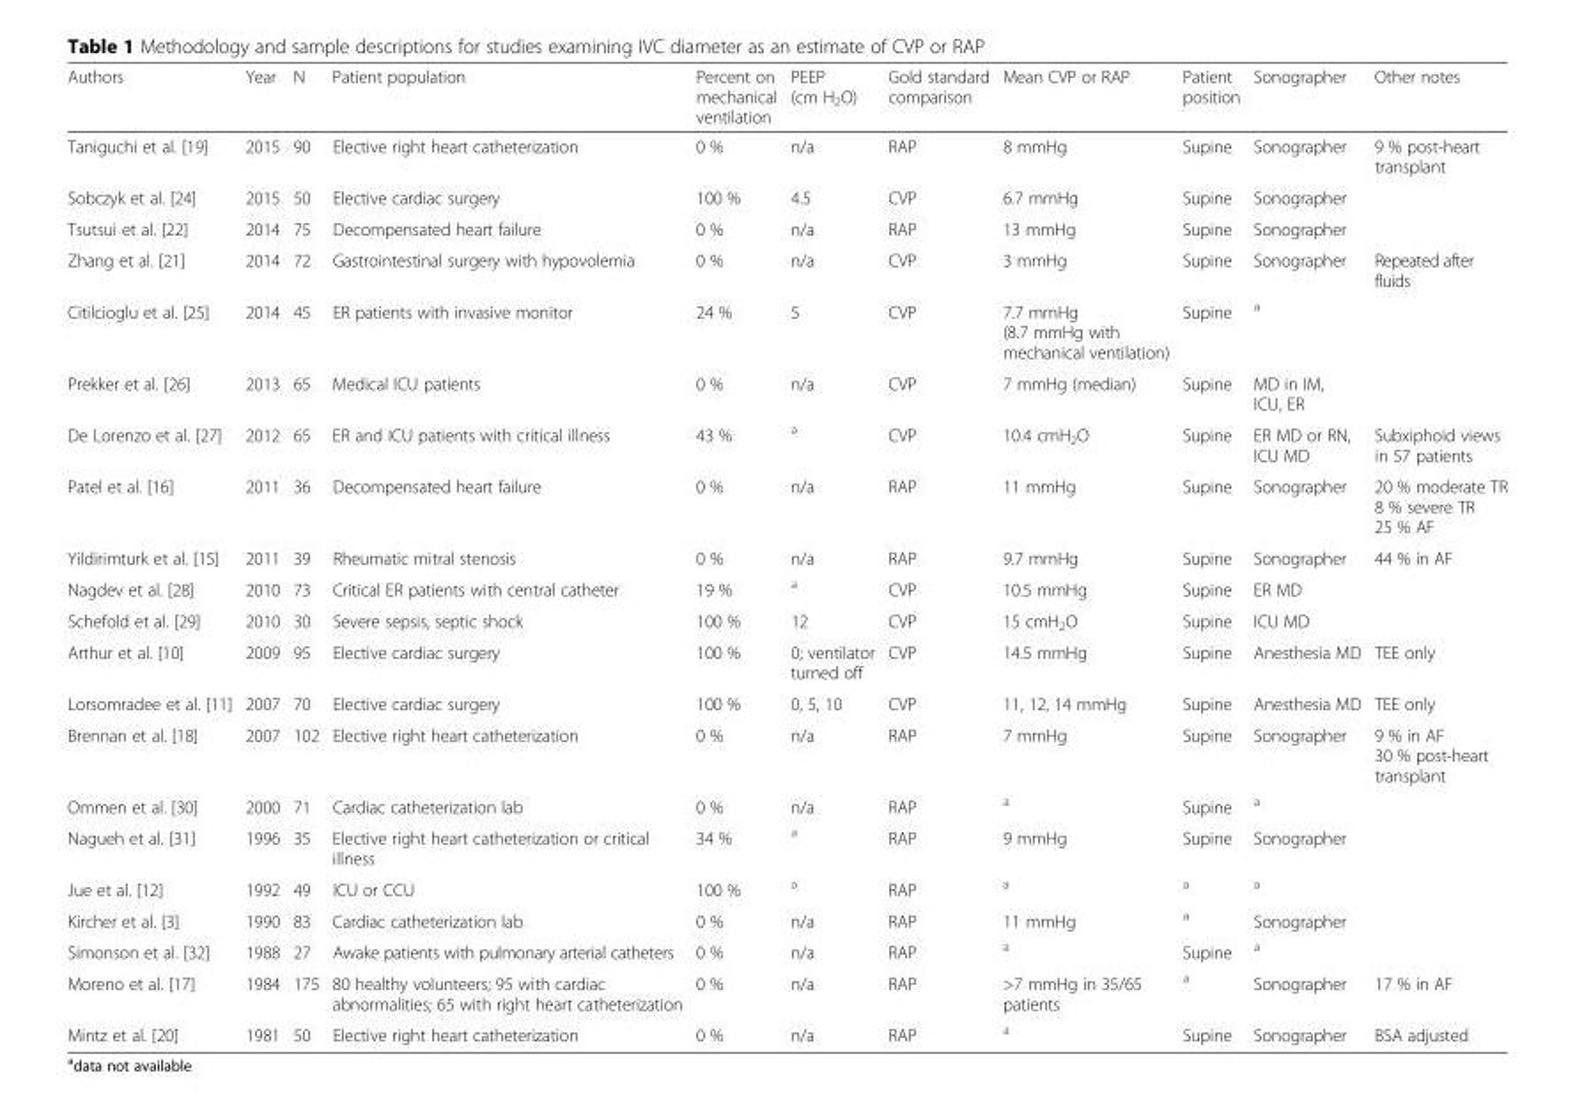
<table><thead><tr><td>Authors</td><td>Year</td><td>N</td><td>Patient population</td><td>Percent on mechanical ventilation</td><td>PEEP (cm H<sub>2</sub>O)</td><td>Gold standard comparison</td><td>Mean CVP or RAP</td><td>Patient position</td><td>Sonographer</td><td>Other notes</td></tr></thead><tbody><tr><td>Taniguchi et al. [19]</td><td>2015</td><td>90</td><td>Elective right heart catheterization</td><td>0 %</td><td>n/a</td><td>RAP</td><td>8 mmHg</td><td>Supine</td><td>Sonographer</td><td>9 % post-heart transplant</td></tr><tr><td>Sobczyk et al. [24]</td><td>2015</td><td>50</td><td>Elective cardiac surgery</td><td>100 %</td><td>4.5</td><td>CVP</td><td>6.7 mmHg</td><td>Supine</td><td>Sonographer</td><td></td></tr><tr><td>Tsutsui et al. [22]</td><td>2014</td><td>75</td><td>Decompensated heart failure</td><td>0 %</td><td>n/a</td><td>RAP</td><td>13 mmHg</td><td>Supine</td><td>Sonographer</td><td></td></tr><tr><td>Zhang et al. [21]</td><td>2014</td><td>72</td><td>Gastrointestinal surgery with hypovolemia</td><td>0 %</td><td>n/a</td><td>CVP</td><td>3 mmHg</td><td>Supine</td><td>Sonographer</td><td>Repeated after fluids</td></tr><tr><td>Citilcioglu et al. [25]</td><td>2014</td><td>45</td><td>ER patients with invasive monitor</td><td>24 %</td><td>5</td><td>CVP</td><td>7.7 mmHg (8.7 mmHg with mechanical ventilation)</td><td>Supine</td><td><sup>a</sup></td><td></td></tr><tr><td>Prekker et al. [26]</td><td>2013</td><td>65</td><td>Medical ICU patients</td><td>0 %</td><td>n/a</td><td>CVP</td><td>7 mmHg (median)</td><td>Supine</td><td>MD in IM, ICU, ER</td><td></td></tr><tr><td>De Lorenzo et al. [27]</td><td>2012</td><td>65</td><td>ER and ICU patients with critical illness</td><td>43 %</td><td><sup>a</sup></td><td>CVP</td><td>10.4 cmH<sub>2</sub>O</td><td>Supine</td><td>ER MD or RN, ICU MD</td><td>Subxiphoid views in 57 patients</td></tr><tr><td>Patel et al. [16]</td><td>2011</td><td>36</td><td>Decompensated heart failure</td><td>0 %</td><td>n/a</td><td>RAP</td><td>11 mmHg</td><td>Supine</td><td>Sonographer</td><td>20 % moderate TR 8 % severe TR 25 % AF</td></tr><tr><td>Yildirimturk et al. [15]</td><td>2011</td><td>39</td><td>Rheumatic mitral stenosis</td><td>0 %</td><td>n/a</td><td>RAP</td><td>9.7 mmHg</td><td>Supine</td><td>Sonographer</td><td>44 % in AF</td></tr><tr><td>Nagdev et al. [28]</td><td>2010</td><td>73</td><td>Critical ER patients with central catheter</td><td>19 %</td><td><sup>a</sup></td><td>CVP</td><td>10.5 mmHg</td><td>Supine</td><td>ER MD</td><td></td></tr><tr><td>Schefold et al. [29]</td><td>2010</td><td>30</td><td>Severe sepsis, septic shock</td><td>100 %</td><td>12</td><td>CVP</td><td>15 cmH<sub>2</sub>O</td><td>Supine</td><td>ICU MD</td><td></td></tr><tr><td>Arthur et al. [10]</td><td>2009</td><td>95</td><td>Elective cardiac surgery</td><td>100 %</td><td>0; ventilator turned off</td><td>CVP</td><td>14.5 mmHg</td><td>Supine</td><td>Anesthesia MD</td><td>TEE only</td></tr><tr><td>Lorsomradee et al. [11]</td><td>2007</td><td>70</td><td>Elective cardiac surgery</td><td>100 %</td><td>0, 5, 10</td><td>CVP</td><td>11, 12, 14 mmHg</td><td>Supine</td><td>Anesthesia MD</td><td>TEE only</td></tr><tr><td>Brennan et al. [18]</td><td>2007</td><td>102</td><td>Elective right heart catheterization</td><td>0 %</td><td>n/a</td><td>RAP</td><td>7 mmHg</td><td>Supine</td><td>Sonographer</td><td>9 % in AF 30 % post-heart transplant</td></tr><tr><td>Ommen et al. [30]</td><td>2000</td><td>71</td><td>Cardiac catheterization lab</td><td>0 %</td><td>n/a</td><td>RAP</td><td><sup>a</sup></td><td>Supine</td><td><sup>a</sup></td><td></td></tr><tr><td>Nagueh et al. [31]</td><td>1996</td><td>35</td><td>Elective right heart catheterization or critical illness</td><td>34 %</td><td><sup>a</sup></td><td>RAP</td><td>9 mmHg</td><td>Supine</td><td>Sonographer</td><td></td></tr><tr><td>Jue et al. [12]</td><td>1992</td><td>49</td><td>ICU or CCU</td><td>100 %</td><td><sup>a</sup></td><td>RAP</td><td><sup>a</sup></td><td><sup>a</sup></td><td><sup>a</sup></td><td></td></tr><tr><td>Kircher et al. [3]</td><td>1990</td><td>83</td><td>Cardiac catheterization lab</td><td>0 %</td><td>n/a</td><td>RAP</td><td>11 mmHg</td><td><sup>a</sup></td><td>Sonographer</td><td></td></tr><tr><td>Simonson et al. [32]</td><td>1988</td><td>27</td><td>Awake patients with pulmonary arterial catheters</td><td>0 %</td><td>n/a</td><td>RAP</td><td><sup>a</sup></td><td>Supine</td><td><sup>a</sup></td><td></td></tr><tr><td>Moreno et al. [17]</td><td>1984</td><td>175</td><td>80 healthy volunteers; 95 with cardiac abnormalities; 65 with right heart catheterization</td><td>0 %</td><td>n/a</td><td>RAP</td><td>&gt;7 mmHg in 35/65 patients</td><td><sup>a</sup></td><td>Sonographer</td><td>17 % in AF</td></tr><tr><td>Mintz et al. [20]</td><td>1981</td><td>50</td><td>Elective right heart catheterization</td><td>0 %</td><td>n/a</td><td>RAP</td><td><sup>a</sup></td><td>Supine</td><td>Sonographer</td><td>BSA adjusted</td></tr></tbody></table>